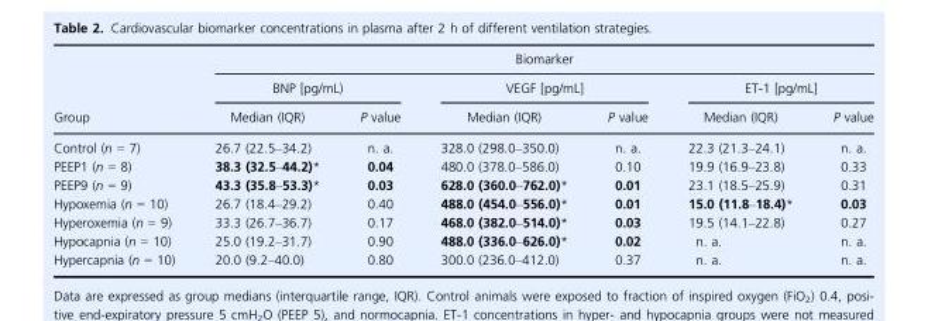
<table><thead><tr><td rowspan="3">Group</td><td colspan="6">Biomarker</td></tr><tr><td colspan="2">BNP [pg/mL)</td><td colspan="2">VEGF [pg/mL]</td><td colspan="2">ET-1 [pg/mL]</td></tr><tr><td>Median (IQR)</td><td>P value</td><td>Median (IQR)</td><td>P value</td><td>Median (IQR)</td><td>P value</td></tr></thead><tbody><tr><td>Control (n = 7)</td><td>26.7 (22.5–34.2)</td><td>n. a.</td><td>328.0 (298.0–350.0)</td><td>n. a.</td><td>22.3 (21.3–24.1)</td><td>n. a.</td></tr><tr><td>PEEP1 (n = 8)</td><td>38.3 (32.5–44.2)*</td><td>0.04</td><td>480.0 (378.0–586.0)</td><td>0.10</td><td>19.9 (16.9–23.8)</td><td>0.33</td></tr><tr><td>PEEP9 (n = 9)</td><td>43.3 (35.8–53.3)*</td><td>0.03</td><td>628.0 (360.0–762.0)*</td><td>0.01</td><td>23.1 (18.5–25.9)</td><td>0.31</td></tr><tr><td>Hypoxemia (n = 10)</td><td>26.7 (18.4–29.2)</td><td>0.40</td><td>488.0 (454.0–556.0)*</td><td>0.01</td><td>15.0 (11.8–18.4)*</td><td>0.03</td></tr><tr><td>Hyperoxemia (n = 9)</td><td>33.3 (26.7–36.7)</td><td>0.17</td><td>468.0 (382.0–514.0)*</td><td>0.03</td><td>19.5 (14.1–22.8)</td><td>0.27</td></tr><tr><td>Hypocapnia (n = 10)</td><td>25.0 (19.2–31.7)</td><td>0.90</td><td>488.0 (336.0–626.0)*</td><td>0.02</td><td>n. a.</td><td>n. a.</td></tr><tr><td>Hypercapnia (n = 10)</td><td>20.0 (9.2–40.0)</td><td>0.80</td><td>300.0 (236.0–412.0)</td><td>0.37</td><td>n. a.</td><td>n. a.</td></tr></tbody></table>